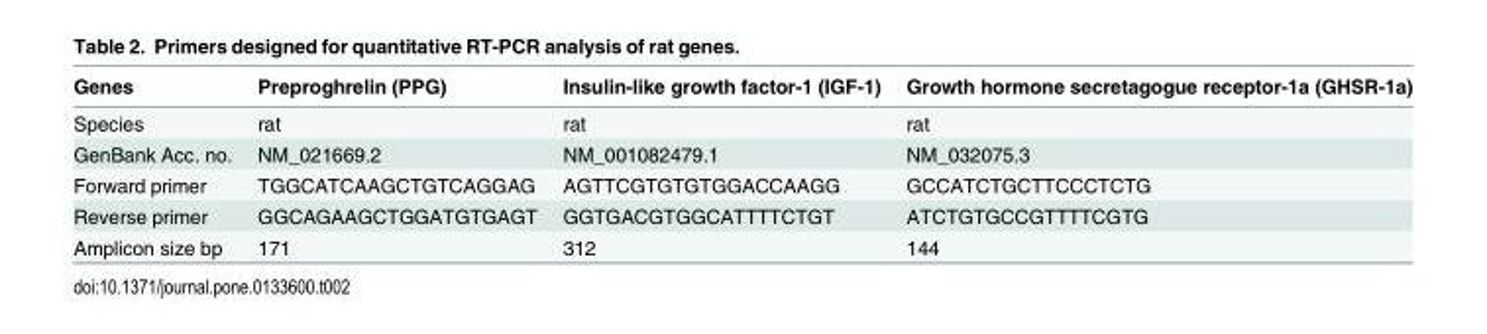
<table><thead><tr><td>Genes</td><td>Preproghrelin (PPG)</td><td>Insulin-like growth factor-1 (IGF-1)</td><td>Growth hormone secretagogue receptor-1a (GHSR-1a)</td></tr></thead><tbody><tr><td>Species</td><td>rat</td><td>rat</td><td>rat</td></tr><tr><td>GenBank Acc. no.</td><td>NM_021669.2</td><td>NM_001082479.1</td><td>NM_032075.3</td></tr><tr><td>Forward primer</td><td>TGGCATCAAGCTGTCAGGAG</td><td>AGTTCGTGTGTGGACCAAGG</td><td>GCCATCTGCTTCCCTCTG</td></tr><tr><td>Reverse primer</td><td>GGCAGAAGCTGGATGTGAGT</td><td>GGTGACGTGGCATTTTCTGT</td><td>ATCTGTGCCGTTTTCGTG</td></tr><tr><td>Amplicon size bp</td><td>171</td><td>312</td><td>144</td></tr></tbody></table>